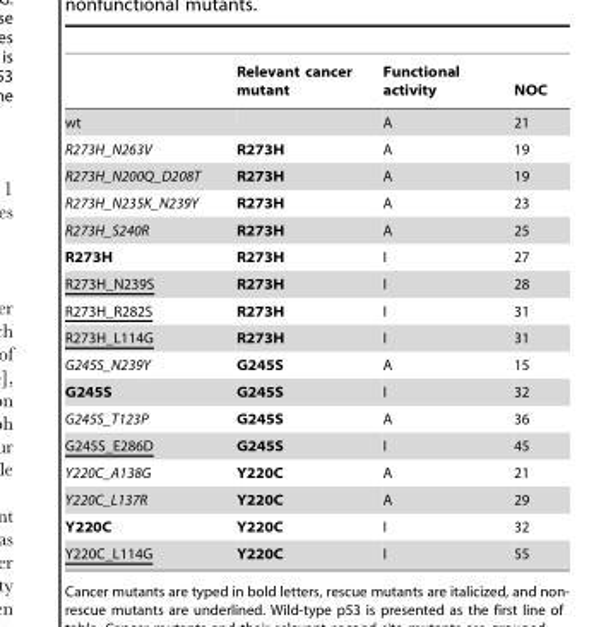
<table><thead><tr><td></td><td>Relevant cancer mutant</td><td>Functional activity</td><td>NOC</td></tr></thead><tbody><tr><td>wt</td><td></td><td>A</td><td>21</td></tr><tr><td>R273H_N263V</td><td>R273H</td><td>A</td><td>19</td></tr><tr><td>R273H_N200Q_D208T</td><td>R273H</td><td>A</td><td>19</td></tr><tr><td>R273H_N235K_N239Y</td><td>R273H</td><td>A</td><td>23</td></tr><tr><td>R273H_S240R</td><td>R273H</td><td>A</td><td>25</td></tr><tr><td>R273H</td><td>R273H</td><td>I</td><td>27</td></tr><tr><td>R273H_N239S</td><td>R273H</td><td>I</td><td>28</td></tr><tr><td>R273H_R282S</td><td>R273H</td><td>I</td><td>31</td></tr><tr><td>R273H_L114G</td><td>R273H</td><td>I</td><td>31</td></tr><tr><td>G245S_N239Y</td><td>G245S</td><td>A</td><td>15</td></tr><tr><td>G245S</td><td>G245S</td><td>I</td><td>32</td></tr><tr><td>G245S_T123P</td><td>G245S</td><td>A</td><td>36</td></tr><tr><td>G245S_E286D</td><td>G245S</td><td>I</td><td>45</td></tr><tr><td>Y220C_A138G</td><td>Y220C</td><td>A</td><td>21</td></tr><tr><td>Y220C_L137R</td><td>Y220C</td><td>A</td><td>29</td></tr><tr><td>Y220C</td><td>Y220C</td><td>I</td><td>32</td></tr><tr><td>Y220C_L114G</td><td>Y220C</td><td>I</td><td>55</td></tr></tbody></table>